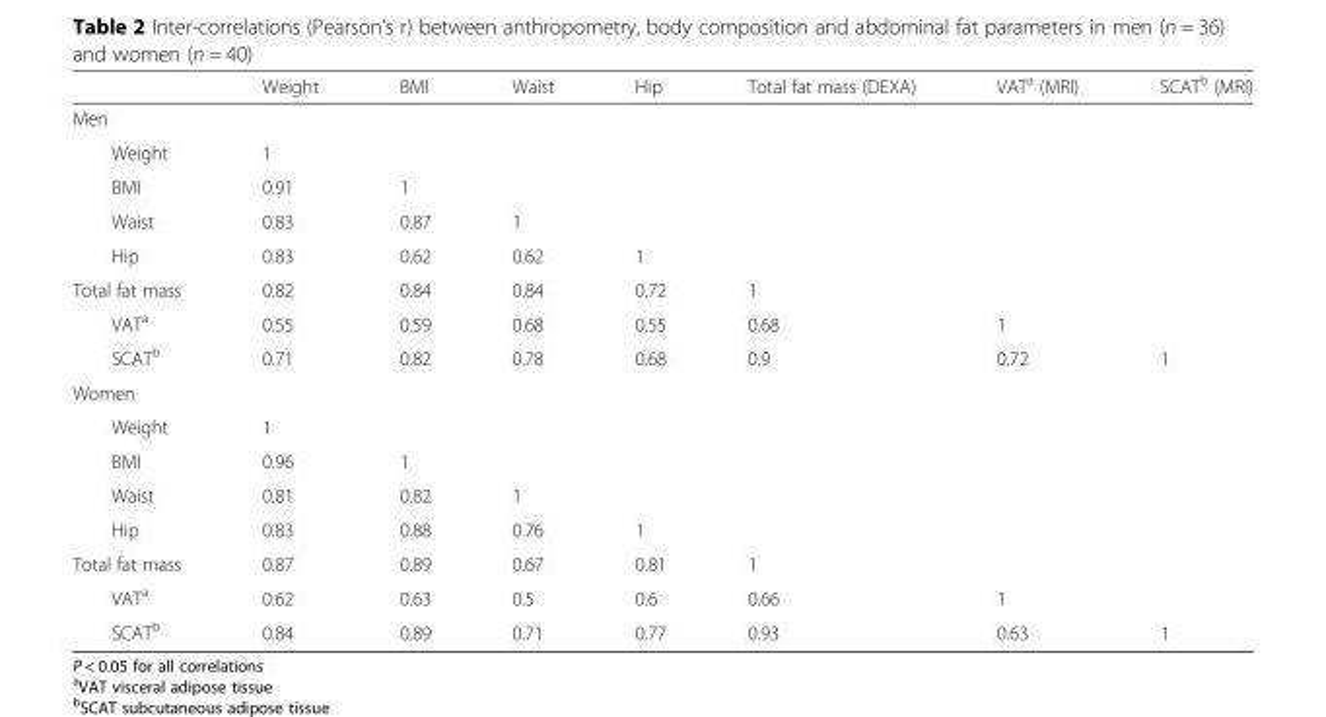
<table><thead><tr><td></td><td>Weight</td><td>BMI</td><td>Waist</td><td>Hip</td><td>Total fat mass (DEXA)</td><td>VAT<sup>a</sup> (MRI)</td><td>SCAT<sup>b</sup> (MRI)</td></tr></thead><tbody><tr><td colspan="8">Men</td></tr><tr><td>Weight</td><td>1</td><td></td><td></td><td></td><td></td><td></td><td></td></tr><tr><td>BMI</td><td>0.91</td><td>1</td><td></td><td></td><td></td><td></td><td></td></tr><tr><td>Waist</td><td>0.83</td><td>0.87</td><td>1</td><td></td><td></td><td></td><td></td></tr><tr><td>Hip</td><td>0.83</td><td>0.62</td><td>0.62</td><td>1</td><td></td><td></td><td></td></tr><tr><td>Total fat mass</td><td>0.82</td><td>0.84</td><td>0.84</td><td>0.72</td><td>1</td><td></td><td></td></tr><tr><td>VAT<sup>a</sup></td><td>0.55</td><td>0.59</td><td>0.68</td><td>0.55</td><td>0.68</td><td>1</td><td></td></tr><tr><td>SCAT<sup>b</sup></td><td>0.71</td><td>0.82</td><td>0.78</td><td>0.68</td><td>0.9</td><td>0.72</td><td>1</td></tr><tr><td colspan="8">Women</td></tr><tr><td>Weight</td><td>1</td><td></td><td></td><td></td><td></td><td></td><td></td></tr><tr><td>BMI</td><td>0.96</td><td>1</td><td></td><td></td><td></td><td></td><td></td></tr><tr><td>Waist</td><td>0.81</td><td>0.82</td><td>1</td><td></td><td></td><td></td><td></td></tr><tr><td>Hip</td><td>0.83</td><td>0.88</td><td>0.76</td><td>1</td><td></td><td></td><td></td></tr><tr><td>Total fat mass</td><td>0.87</td><td>0.89</td><td>0.67</td><td>0.81</td><td>1</td><td></td><td></td></tr><tr><td>VAT<sup>a</sup></td><td>0.62</td><td>0.63</td><td>0.5</td><td>0.6</td><td>0.66</td><td>1</td><td></td></tr><tr><td>SCAT<sup>b</sup></td><td>0.84</td><td>0.89</td><td>0.71</td><td>0.77</td><td>0.93</td><td>0.63</td><td>1</td></tr></tbody></table>